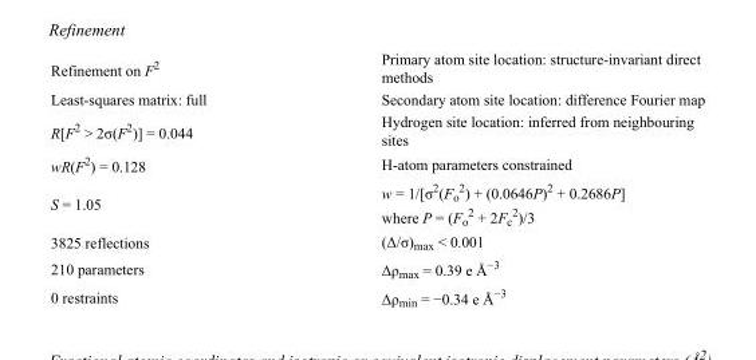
<table><tbody><tr><td>Refinement on F<sup>2</sup></td><td>Primary atom site location: structure-invariant direct methods</td></tr><tr><td>Least-squares matrix: full</td><td>Secondary atom site location: difference Fourier map</td></tr><tr><td>R[F<sup>2</sup> &gt; 2σ(F<sup>2</sup>)] = 0.044</td><td>Hydrogen site location: inferred from neighbouring sites</td></tr><tr><td>wR(F<sup>2</sup>) = 0.128</td><td>H-atom parameters constrained</td></tr><tr><td>S = 1.05</td><td>w = 1/[σ<sup>2</sup>(F<sub>o</sub> <sup>2</sup>) + (0.0646P)<sup>2</sup> + 0.2686P] where P = (F<sub>o</sub> <sup>2</sup> + 2F<sub>c</sub> <sup>2</sup>)/3</td></tr><tr><td>3825 reflections</td><td>(Δ/σ)<sub>max</sub> &lt; 0.001</td></tr><tr><td>210 parameters</td><td>Δρ<sub>max</sub> = 0.39 e Å<sup>−3</sup></td></tr><tr><td>0 restraints</td><td>Δρmin = −0.34 e Å−3</td></tr></tbody></table>